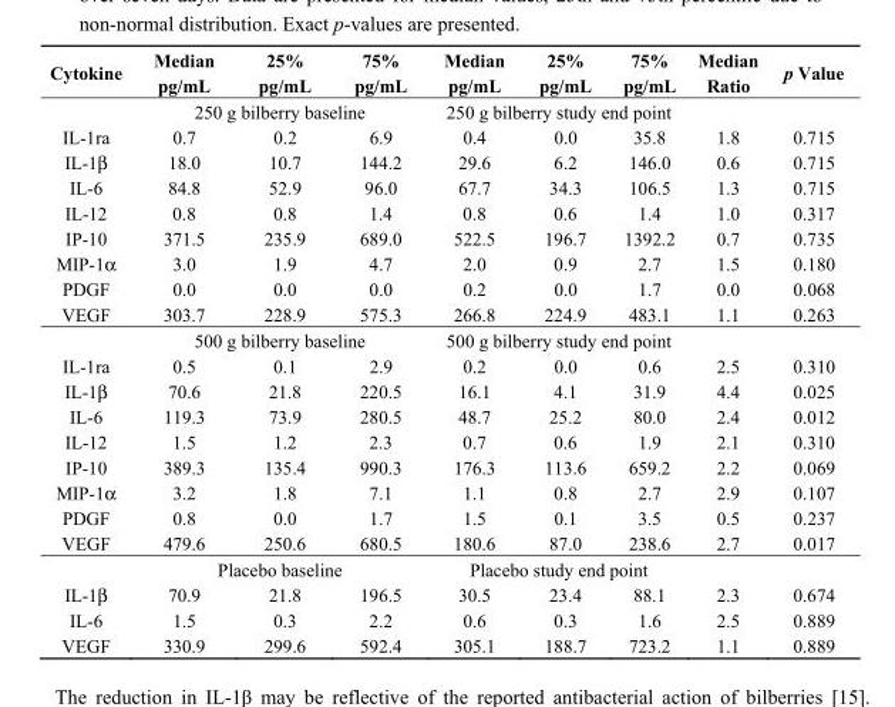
<table><thead><tr><td>Cytokine</td><td>Median pg/mL</td><td>25% pg/mL</td><td>75% pg/mL</td><td>Median pg/mL</td><td>25% pg/mL</td><td>75% pg/mL</td><td>Median Ratio</td><td>p Value</td></tr></thead><tbody><tr><td></td><td colspan="3">250 g bilberry baseline</td><td colspan="3">250 g bilberry study end point</td><td></td><td></td></tr><tr><td>IL-1ra</td><td>0.7</td><td>0.2</td><td>6.9</td><td>0.4</td><td>0.0</td><td>35.8</td><td>1.8</td><td>0.715</td></tr><tr><td>IL-1β</td><td>18.0</td><td>10.7</td><td>144.2</td><td>29.6</td><td>6.2</td><td>146.0</td><td>0.6</td><td>0.715</td></tr><tr><td>IL-6</td><td>84.8</td><td>52.9</td><td>96.0</td><td>67.7</td><td>34.3</td><td>106.5</td><td>1.3</td><td>0.715</td></tr><tr><td>IL-12</td><td>0.8</td><td>0.8</td><td>1.4</td><td>0.8</td><td>0.6</td><td>1.4</td><td>1.0</td><td>0.317</td></tr><tr><td>IP-10</td><td>371.5</td><td>235.9</td><td>689.0</td><td>522.5</td><td>196.7</td><td>1392.2</td><td>0.7</td><td>0.735</td></tr><tr><td>MIP-1α</td><td>3.0</td><td>1.9</td><td>4.7</td><td>2.0</td><td>0.9</td><td>2.7</td><td>1.5</td><td>0.180</td></tr><tr><td>PDGF</td><td>0.0</td><td>0.0</td><td>0.0</td><td>0.2</td><td>0.0</td><td>1.7</td><td>0.0</td><td>0.068</td></tr><tr><td rowspan="2">VEGF</td><td>303.7</td><td>228.9</td><td>575.3</td><td>266.8</td><td>224.9</td><td>483.1</td><td>1.1</td><td>0.263</td></tr><tr><td colspan="3">500 g bilberry baseline</td><td colspan="3">500 g bilberry study end point</td><td></td><td></td></tr><tr><td>IL-1ra</td><td>0.5</td><td>0.1</td><td>2.9</td><td>0.2</td><td>0.0</td><td>0.6</td><td>2.5</td><td>0.310</td></tr><tr><td>IL-1β</td><td>70.6</td><td>21.8</td><td>220.5</td><td>16.1</td><td>4.1</td><td>31.9</td><td>4.4</td><td>0.025</td></tr><tr><td>IL-6</td><td>119.3</td><td>73.9</td><td>280.5</td><td>48.7</td><td>25.2</td><td>80.0</td><td>2.4</td><td>0.012</td></tr><tr><td>IL-12</td><td>1.5</td><td>1.2</td><td>2.3</td><td>0.7</td><td>0.6</td><td>1.9</td><td>2.1</td><td>0.310</td></tr><tr><td>IP-10</td><td>389.3</td><td>135.4</td><td>990.3</td><td>176.3</td><td>113.6</td><td>659.2</td><td>2.2</td><td>0.069</td></tr><tr><td>MIP-1α</td><td>3.2</td><td>1.8</td><td>7.1</td><td>1.1</td><td>0.8</td><td>2.7</td><td>2.9</td><td>0.107</td></tr><tr><td>PDGF</td><td>0.8</td><td>0.0</td><td>1.7</td><td>1.5</td><td>0.1</td><td>3.5</td><td>0.5</td><td>0.237</td></tr><tr><td rowspan="2">VEGF</td><td>479.6</td><td>250.6</td><td>680.5</td><td>180.6</td><td>87.0</td><td>238.6</td><td>2.7</td><td>0.017</td></tr><tr><td colspan="3">Placebo baseline</td><td colspan="3">Placebo study end point</td><td></td><td></td></tr><tr><td>IL-1β</td><td>70.9</td><td>21.8</td><td>196.5</td><td>30.5</td><td>23.4</td><td>88.1</td><td>2.3</td><td>0.674</td></tr><tr><td>IL-6</td><td>1.5</td><td>0.3</td><td>2.2</td><td>0.6</td><td>0.3</td><td>1.6</td><td>2.5</td><td>0.889</td></tr><tr><td>VEGF</td><td>330.9</td><td>299.6</td><td>592.4</td><td>305.1</td><td>188.7</td><td>723.2</td><td>1.1</td><td>0.889</td></tr></tbody></table>